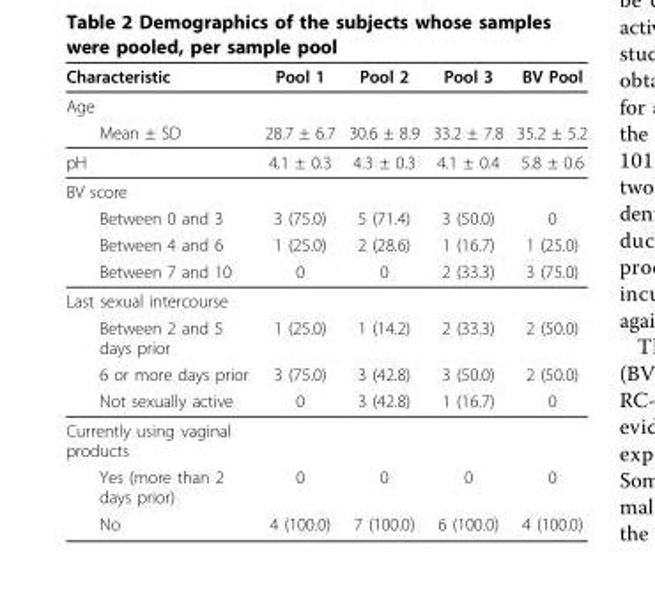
<table><thead><tr><td>Characteristic</td><td>Pool 1</td><td>Pool 2</td><td>Pool 3</td><td>BV Pool</td></tr></thead><tbody><tr><td colspan="5">Age</td></tr><tr><td>Mean ± SD</td><td>28.7 ± 6.7</td><td>30.6 ± 8.9</td><td>33.2 ± 7.8</td><td>35.2 ± 5.2</td></tr><tr><td>pH</td><td>4.1 ± 0.3</td><td>4.3 ± 0.3</td><td>4.1 ± 0.4</td><td>5.8 ± 0.6</td></tr><tr><td colspan="5">BV score</td></tr><tr><td>Between 0 and 3</td><td>3 (75.0)</td><td>5 (71.4)</td><td>3 (50.0)</td><td>0</td></tr><tr><td>Between 4 and 6</td><td>1 (25.0)</td><td>2 (28.6)</td><td>1 (16.7)</td><td>1 (25.0)</td></tr><tr><td>Between 7 and 10</td><td>0</td><td>0</td><td>2 (33.3)</td><td>3 (75.0)</td></tr><tr><td colspan="5">Last sexual intercourse</td></tr><tr><td>Between 2 and 5 days prior</td><td>1 (25.0)</td><td>1 (14.2)</td><td>2 (33.3)</td><td>2 (50.0)</td></tr><tr><td>6 or more days prior</td><td>3 (75.0)</td><td>3 (42.8)</td><td>3 (50.0)</td><td>2 (50.0)</td></tr><tr><td>Not sexually active</td><td>0</td><td>3 (42.8)</td><td>1 (16.7)</td><td>0</td></tr><tr><td colspan="5">Currently using vaginal products</td></tr><tr><td>Yes (more than 2 days prior)</td><td>0</td><td>0</td><td>0</td><td>0</td></tr><tr><td>No</td><td>4 (100.0)</td><td>7 (100.0)</td><td>6 (100.0)</td><td>4 (100.0)</td></tr></tbody></table>